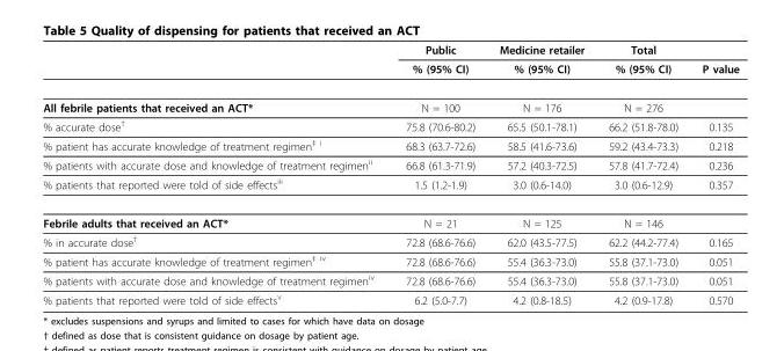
<table><thead><tr><td rowspan="2"></td><td rowspan="2">Public % (95% CI)</td><td rowspan="2">Medicine retailer % (95% CI)</td><td rowspan="2">Total % (95% CI)</td><td rowspan="2">P value</td></tr><tr></tr></thead><tbody><tr><td>All febrile patients that received an ACT*</td><td>N = 100</td><td>N = 176</td><td>N = 276</td><td></td></tr><tr><td>% accurate dose†</td><td>75.8 (70.6-80.2)</td><td>65.5 (50.1-78.1)</td><td>66.2 (51.8-78.0)</td><td>0.135</td></tr><tr><td>% patient has accurate knowledge of treatment regimen‡ i</td><td>68.3 (63.7-72.6)</td><td>58.5 (41.6-73.6)</td><td>59.2 (43.4-73.3)</td><td>0.218</td></tr><tr><td>% patients with accurate dose and knowledge of treatment regimenii</td><td>66.8 (61.3-71.9)</td><td>57.2 (40.3-72.5)</td><td>57.8 (41.7-72.4)</td><td>0.236</td></tr><tr><td>% patients that reported were told of side effectsiii</td><td>1.5 (1.2-1.9)</td><td>3.0 (0.6-14.0)</td><td>3.0 (0.6-12.9)</td><td>0.357</td></tr><tr><td>Febrile adults that received an ACT*</td><td>N = 21</td><td>N = 125</td><td>N = 146</td><td></td></tr><tr><td>% in accurate dose†</td><td>72.8 (68.6-76.6)</td><td>62.0 (43.5-77.5)</td><td>62.2 (44.2-77.4)</td><td>0.165</td></tr><tr><td>% patient has accurate knowledge of treatment regimen‡ iv</td><td>72.8 (68.6-76.6)</td><td>55.4 (36.3-73.0)</td><td>55.8 (37.1-73.0)</td><td>0.051</td></tr><tr><td>% patients with accurate dose and knowledge of treatment regimeniv</td><td>72.8 (68.6-76.6)</td><td>55.4 (36.3-73.0)</td><td>55.8 (37.1-73.0)</td><td>0.051</td></tr><tr><td>% patients that reported were told of side effectsv</td><td>6.2 (5.0-7.7)</td><td>4.2 (0.8-18.5)</td><td>4.2 (0.9-17.8)</td><td>0.570</td></tr></tbody></table>